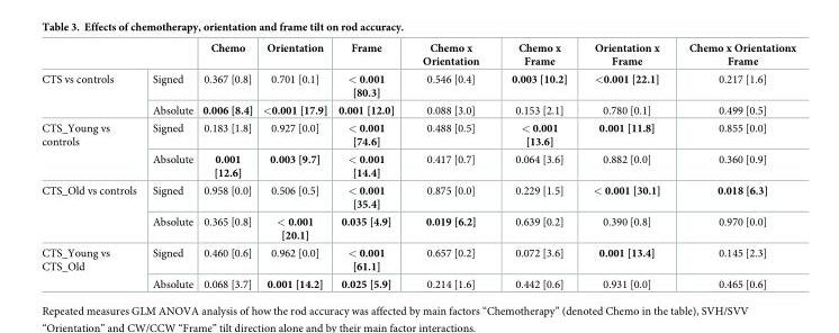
<table><thead><tr><td></td><td></td><td>Chemo</td><td>Orientation</td><td>Frame</td><td>Chemo x Orientation</td><td>Chemo x Frame</td><td>Orientation x Frame</td><td>Chemo x Orientationx Frame</td></tr></thead><tbody><tr><td rowspan="2">CTS vs controls</td><td>Signed</td><td>0.367 [0.8]</td><td>0.701 [0.1]</td><td>&lt; 0.001 [80.3]</td><td>0.546 [0.4]</td><td>0.003 [10.2]</td><td>&lt;0.001 [22.1]</td><td>0.217 [1.6]</td></tr><tr><td>Absolute</td><td>0.006 [8.4]</td><td>&lt;0.001 [17.9]</td><td>0.001 [12.0]</td><td>0.088 [3.0]</td><td>0.153 [2.1]</td><td>0.780 [0.1]</td><td>0.499 [0.5]</td></tr><tr><td rowspan="2">CTS_Young vs controls</td><td>Signed</td><td>0.183 [1.8]</td><td>0.927 [0.0]</td><td>&lt; 0.001 [74.6]</td><td>0.488 [0.5]</td><td>&lt; 0.001 [13.6]</td><td>0.001 [11.8]</td><td>0.855 [0.0]</td></tr><tr><td>Absolute</td><td>0.001 [12.6]</td><td>0.003 [9.7]</td><td>&lt; 0.001 [14.4]</td><td>0.417 [0.7]</td><td>0.064 [3.6]</td><td>0.882 [0.0]</td><td>0.360 [0.9]</td></tr><tr><td rowspan="2">CTS_Old vs controls</td><td>Signed</td><td>0.958 [0.0]</td><td>0.506 [0.5]</td><td>&lt; 0.001 [35.4]</td><td>0.875 [0.0]</td><td>0.229 [1.5]</td><td>&lt; 0.001 [30.1]</td><td>0.018 [6.3]</td></tr><tr><td>Absolute</td><td>0.365 [0.8]</td><td>&lt; 0.001 [20.1]</td><td>0.035 [4.9]</td><td>0.019 [6.2]</td><td>0.639 [0.2]</td><td>0.390 [0.8]</td><td>0.970 [0.0]</td></tr><tr><td rowspan="2">CTS_Young vs CTS_Old</td><td>Signed</td><td>0.460 [0.6]</td><td>0.962 [0.0]</td><td>&lt; 0.001 [61.1]</td><td>0.657 [0.2]</td><td>0.072 [3.6]</td><td>0.001 [13.4]</td><td>0.145 [2.3]</td></tr><tr><td>Absolute</td><td>0.068 [3.7]</td><td>0.001 [14.2]</td><td>0.025 [5.9]</td><td>0.214 [1.6]</td><td>0.442 [0.6]</td><td>0.931 [0.0]</td><td>0.465 [0.6]</td></tr></tbody></table>